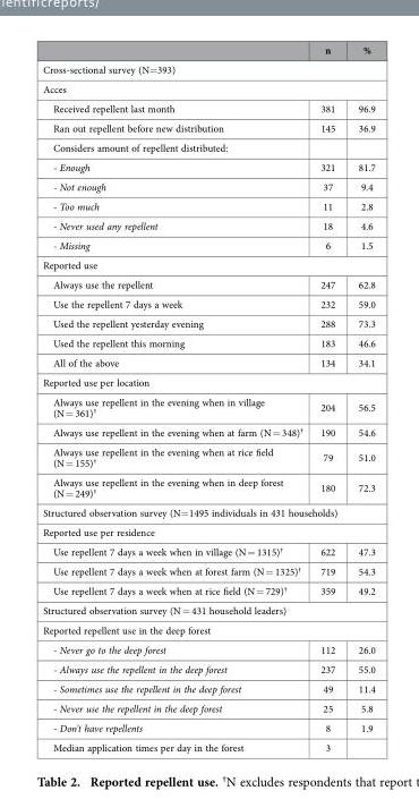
<table><thead><tr><td></td><td>n</td><td>%</td></tr></thead><tbody><tr><td colspan="3">Cross-sectional survey (N=393)</td></tr><tr><td colspan="3">Acces</td></tr><tr><td>Received repellent last month</td><td>381</td><td>96.9</td></tr><tr><td>Ran out repellent before new distribution</td><td>145</td><td>36.9</td></tr><tr><td colspan="3">Considers amount of repellent distributed:</td></tr><tr><td>- Enough</td><td>321</td><td>81.7</td></tr><tr><td>- Not enough</td><td>37</td><td>9.4</td></tr><tr><td>- Too much</td><td>11</td><td>2.8</td></tr><tr><td>- Never used any repellent</td><td>18</td><td>4.6</td></tr><tr><td>- Missing</td><td>6</td><td>1.5</td></tr><tr><td colspan="3">Reported use</td></tr><tr><td>Always use the repellent</td><td>247</td><td>62.8</td></tr><tr><td>Use the repellent 7 days a week</td><td>232</td><td>59.0</td></tr><tr><td>Used the repellent yesterday evening</td><td>288</td><td>73.3</td></tr><tr><td>Used the repellent this morning</td><td>183</td><td>46.6</td></tr><tr><td>All of the above</td><td>134</td><td>34.1</td></tr><tr><td colspan="3">Reported use per location</td></tr><tr><td>Always use repellent in the evening when in village (N = 361)†</td><td>204</td><td>56.5</td></tr><tr><td>Always use repellent in the evening when at farm (N = 348)†</td><td>190</td><td>54.6</td></tr><tr><td>Always use repellent in the evening when at rice field (N = 155)†</td><td>79</td><td>51.0</td></tr><tr><td>Always use repellent in the evening when in deep forest (N = 249)†</td><td>180</td><td>72.3</td></tr><tr><td colspan="3">Structured observation survey (N= 1495 individuals in 431 households)</td></tr><tr><td colspan="3">Reported use per residence</td></tr><tr><td>Use repellent 7 days a week when in village (N = 1315)†</td><td>622</td><td>47.3</td></tr><tr><td>Use repellent 7 days a week when at forest farm (N = 1325)†</td><td>719</td><td>54.3</td></tr><tr><td>Use repellent 7 days a week when at rice field (N = 729)†</td><td>359</td><td>49.2</td></tr><tr><td colspan="3">Structured observation survey (N = 431 household leaders)</td></tr><tr><td colspan="3">Reported repellent use in the deep forest</td></tr><tr><td>- Never go to the deep forest</td><td>112</td><td>26.0</td></tr><tr><td>- Always use the repellent in the deep forest</td><td>237</td><td>55.0</td></tr><tr><td>- Sometimes use the repellent in the deep forest</td><td>49</td><td>11.4</td></tr><tr><td>- Never use the repellent in the deep forest</td><td>25</td><td>5.8</td></tr><tr><td>- Don’t have repellents</td><td>8</td><td>1.9</td></tr><tr><td>Median application times per day in the forest</td><td>3</td><td></td></tr></tbody></table>